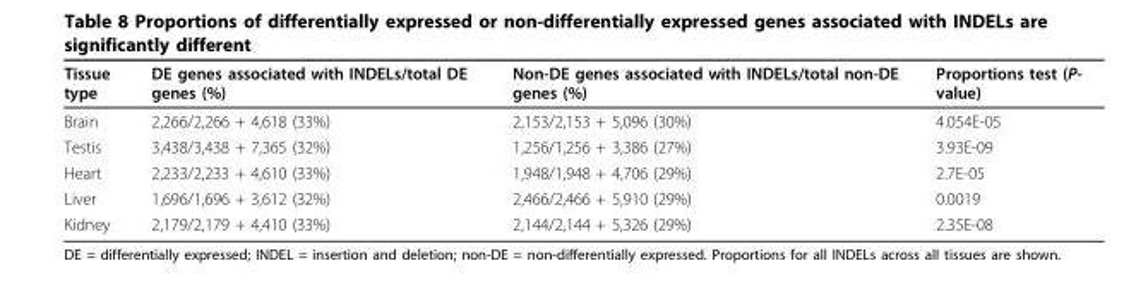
<table><thead><tr><td>Tissue type</td><td>DE genes associated with INDELs/total DE genes (%)</td><td>Non-DE genes associated with INDELs/total non-DE genes (%)</td><td>Proportions test (P- value)</td></tr></thead><tbody><tr><td>Brain</td><td>2,266/2,266 + 4,618 (33%)</td><td>2,153/2,153 + 5,096 (30%)</td><td>4.054E-05</td></tr><tr><td>Testis</td><td>3,438/3,438 + 7,365 (32%)</td><td>1,256/1,256 + 3,386 (27%)</td><td>3.93E-09</td></tr><tr><td>Heart</td><td>2,233/2,233 + 4,610 (33%)</td><td>1,948/1,948 + 4,706 (29%)</td><td>2.7E-05</td></tr><tr><td>Liver</td><td>1,696/1,696 + 3,612 (32%)</td><td>2,466/2,466 + 5,910 (29%)</td><td>0.0019</td></tr><tr><td>Kidney</td><td>2,179/2,179 + 4,410 (33%)</td><td>2,144/2,144 + 5,326 (29%)</td><td>2.35E-08</td></tr></tbody></table>